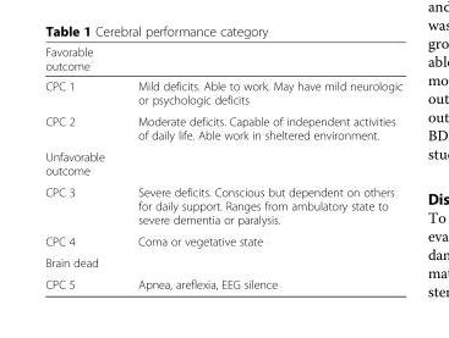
<table><thead><tr><td>Favorable outcome</td><td></td></tr></thead><tbody><tr><td>CPC 1</td><td>Mild deficits. Able to work. May have mild neurologic or psychologic deficits</td></tr><tr><td>CPC 2</td><td>Moderate deficits. Capable of independent activities of daily life. Able work in sheltered environment.</td></tr><tr><td colspan="2">Unfavorable outcome</td></tr><tr><td>CPC 3</td><td>Severe deficits. Conscious but dependent on others for daily support. Ranges from ambulatory state to severe dementia or paralysis.</td></tr><tr><td>CPC 4</td><td>Coma or vegetative state</td></tr><tr><td colspan="2">Brain dead</td></tr><tr><td>CPC 5</td><td>Apnea, areflexia, EEG silence</td></tr></tbody></table>